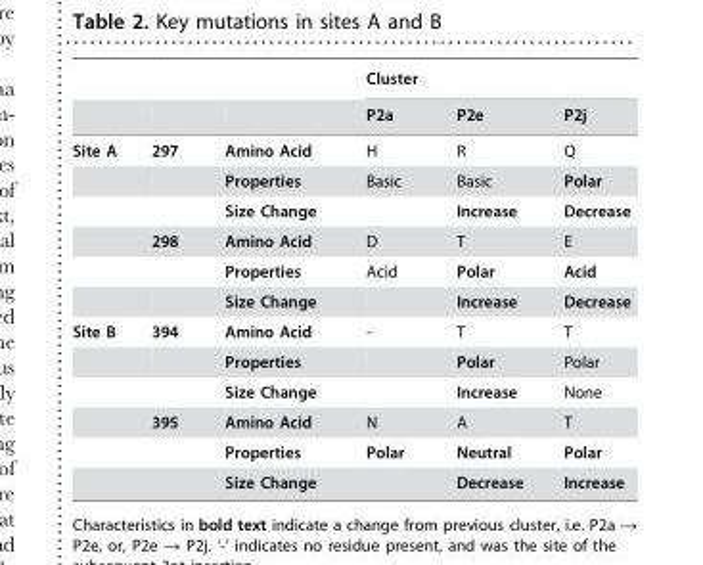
<table><thead><tr><td rowspan="2"></td><td rowspan="2"></td><td rowspan="2"></td><td colspan="3">Cluster</td></tr><tr><td>P2a</td><td>P2e</td><td>P2j</td></tr></thead><tbody><tr><td rowspan="6">Site A</td><td>297</td><td>Amino Acid</td><td>H</td><td>R</td><td>Q</td></tr><tr><td></td><td>Properties</td><td>Basic</td><td>Basic</td><td>Polar</td></tr><tr><td></td><td>Size Change</td><td></td><td>Increase</td><td>Decrease</td></tr><tr><td>298</td><td>Amino Acid</td><td>D</td><td>T</td><td>E</td></tr><tr><td></td><td>Properties</td><td>Acid</td><td>Polar</td><td>Acid</td></tr><tr><td></td><td>Size Change</td><td></td><td>Increase</td><td>Decrease</td></tr><tr><td rowspan="6">Site B</td><td>394</td><td>Amino Acid</td><td>-</td><td>T</td><td>T</td></tr><tr><td></td><td>Properties</td><td></td><td>Polar</td><td>Polar</td></tr><tr><td></td><td>Size Change</td><td></td><td>Increase</td><td>None</td></tr><tr><td>395</td><td>Amino Acid</td><td>N</td><td>A</td><td>T</td></tr><tr><td></td><td>Properties</td><td>Polar</td><td>Neutral</td><td>Polar</td></tr><tr><td></td><td>Size Change</td><td></td><td>Decrease</td><td>Increase</td></tr></tbody></table>